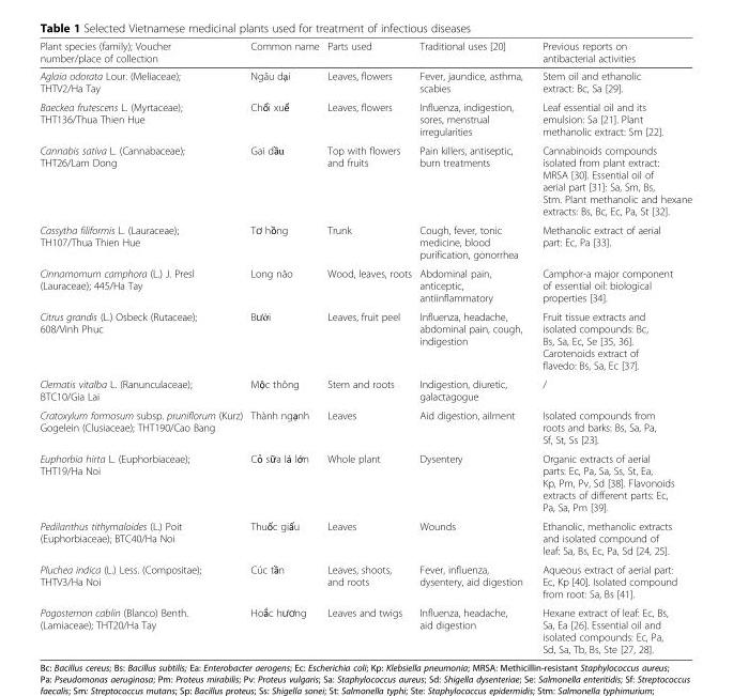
<table><thead><tr><td>Plant species (family); Voucher number/place of collection</td><td>Common name</td><td>Parts used</td><td>Traditional uses [20]</td><td>Previous reports on antibacterial activities</td></tr></thead><tbody><tr><td>Aglaia odorata Lour. (Meliaceae); THTV2/Ha Tay</td><td>Ngâu dại</td><td>Leaves, flowers</td><td>Fever, jaundice, asthma, scabies</td><td>Stem oil and ethanolic extract: Bc, Sa [29].</td></tr><tr><td>Baeckea frutescens L. (Myrtaceae); THT136/Thua Thien Hue</td><td>Chổi xuể</td><td>Leaves, flowers</td><td>Influenza, indigestion, sores, menstrual irregularities</td><td>Leaf essential oil and its emulsion: Sa [21]. Plant methanolic extract: Sm [22].</td></tr><tr><td>Cannabis sativa L. (Cannabaceae); THT26/Lam Dong</td><td>Gai dầu</td><td>Top with flowers and fruits</td><td>Pain killers, antiseptic, burn treatments</td><td>Cannabinoids compounds isolated from plant extract: MRSA [30]. Essential oil of aerial part [31]: Sa, Sm, Bs, Stm. Plant methanolic and hexane extracts: Bs, Bc, Ec, Pa, St [32].</td></tr><tr><td>Cassytha filiformis L. (Lauraceae); TH107/Thua Thien Hue</td><td>Tơ hồng</td><td>Trunk</td><td>Cough, fever, tonic medicine, blood purification, gonorrhea</td><td>Methanolic extract of aerial part: Ec, Pa [33].</td></tr><tr><td>Cinnamomum camphora (L.) J. Presl (Lauraceae); 445/Ha Tay</td><td>Long não</td><td>Wood, leaves, roots</td><td>Abdominal pain, anticeptic, antiinflammatory</td><td>Camphor-a major component of essential oil: biological properties [34].</td></tr><tr><td>Citrus grandis (L.) Osbeck (Rutaceae); 608/Vinh Phuc</td><td>Bưởi</td><td>Leaves, fruit peel</td><td>Influenza, headache, abdominal pain, cough, indigestion</td><td>Fruit tissue extracts and isolated compounds: Bc, Bs, Sa, Ec, Se [35, 36]. Carotenoids extract of flavedo: Bs, Sa, Ec [37].</td></tr><tr><td>Clematis vitalba L. (Ranunculaceae); BTC10/Gia Lai</td><td>Mộc thông</td><td>Stem and roots</td><td>Indigestion, diuretic, galactagogue</td><td>/</td></tr><tr><td>Cratoxylum formosum subsp. pruniflorum (Kurz) Gogelein (Clusiaceae); THT190/Cao Bang</td><td>Thành ngạnh</td><td>Leaves</td><td>Aid digestion, ailment</td><td>Isolated compounds from roots and barks: Bs, Sa, Pa, Sf, St, Ss [23].</td></tr><tr><td>Euphorbia hirta L. (Euphorbiaceae); THT19/Ha Noi</td><td>Cỏ sữa lá lớn</td><td>Whole plant</td><td>Dysentery</td><td>Organic extracts of aerial parts: Ec, Pa, Sa, Ss, St, Ea, Kp, Pm, Pv, Sd [38]. Flavonoids extracts of different parts: Ec, Pa, Sa, Pm [39].</td></tr><tr><td>Pedilanthus tithymaloides (L.) Poit (Euphorbiaceae); BTC40/Ha Noi</td><td>Thuốc giấu</td><td>Leaves</td><td>Wounds</td><td>Ethanolic, methanolic extracts and isolated compound of leaf: Sa, Bs, Ec, Pa, Sd [24, 25].</td></tr><tr><td>Pluchea indica (L.) Less. (Compositae); THTV3/Ha Noi</td><td>Cúc tần</td><td>Leaves, shoots, and roots</td><td>Fever, influenza, dysentery, aid digestion</td><td>Aqueous extract of aerial part: Ec, Kp [40]. Isolated compound from root: Sa, Bs [41].</td></tr><tr><td>Pogostemon cablin (Blanco) Benth. (Lamiaceae); THT20/Ha Tay</td><td>Hoắc hương</td><td>Leaves and twigs</td><td>Influenza, headache, aid digestion</td><td>Hexane extract of leaf: Ec, Bs, Sa, Ea [26]. Essential oil and isolated compounds: Ec, Pa, Sd, Sa, Tb, Bs, Ste [27, 28].</td></tr></tbody></table>